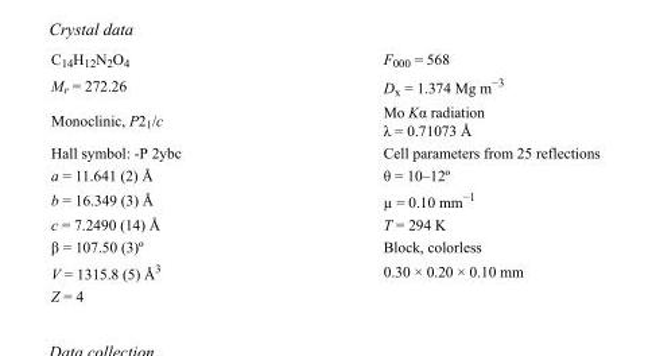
<table><tbody><tr><td>C<sub>14</sub>H<sub>12</sub>N<sub>2</sub>O<sub>4</sub></td><td>F000 = 568</td></tr><tr><td>M<sub>r</sub> = 272.26</td><td>D<sub>x</sub> = 1.374 Mg m<sup>−3</sup></td></tr><tr><td>Monoclinic, P2<sub>1</sub>/c</td><td>Mo Kα radiation λ = 0.71073 Å</td></tr><tr><td>Hall symbol: -P 2ybc</td><td>Cell parameters from 25 reflections</td></tr><tr><td>a = 11.641 (2) Å</td><td>θ = 10–12º</td></tr><tr><td>b = 16.349 (3) Å</td><td>µ = 0.10 mm<sup>−1</sup></td></tr><tr><td>c = 7.2490 (14) Å</td><td>T = 294 K</td></tr><tr><td>β = 107.50 (3)º</td><td>Block, colorless</td></tr><tr><td>V = 1315.8 (5) Å<sup>3</sup></td><td>0.30 × 0.20 × 0.10 mm</td></tr><tr><td>Z = 4</td><td></td></tr></tbody></table>